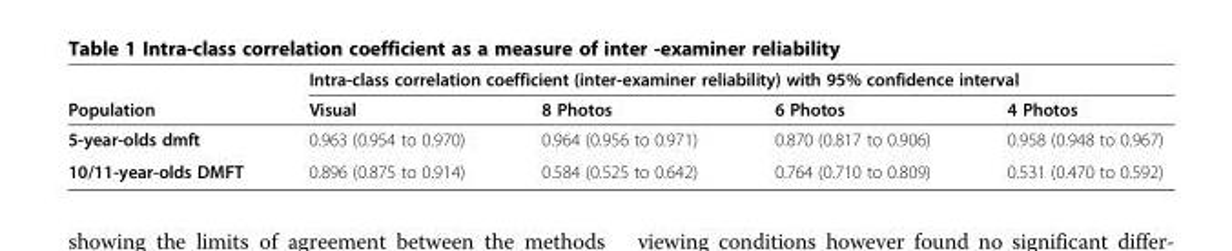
<table><thead><tr><td rowspan="2">Population</td><td colspan="4">Intra-class correlation coefficient (inter-examiner reliability) with 95% confidence interval</td></tr><tr><td>Visual</td><td>8 Photos</td><td>6 Photos</td><td>4 Photos</td></tr></thead><tbody><tr><td>5-year-olds dmft</td><td>0.963 (0.954 to 0.970)</td><td>0.964 (0.956 to 0.971)</td><td>0.870 (0.817 to 0.906)</td><td>0.958 (0.948 to 0.967)</td></tr><tr><td>10/11-year-olds DMFT</td><td>0.896 (0.875 to 0.914)</td><td>0.584 (0.525 to 0.642)</td><td>0.764 (0.710 to 0.809)</td><td>0.531 (0.470 to 0.592)</td></tr></tbody></table>